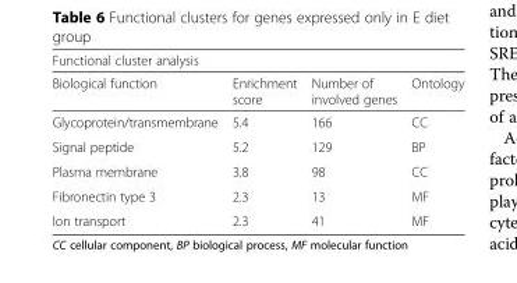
<table><thead><tr><td colspan="4">Functional cluster analysis</td></tr><tr><td>Biological function</td><td>Enrichment score</td><td>Number of involved genes</td><td>Ontology</td></tr></thead><tbody><tr><td>Glycoprotein/transmembrane</td><td>5.4</td><td>166</td><td>CC</td></tr><tr><td>Signal peptide</td><td>5.2</td><td>129</td><td>BP</td></tr><tr><td>Plasma membrane</td><td>3.8</td><td>98</td><td>CC</td></tr><tr><td>Fibronectin type 3</td><td>2.3</td><td>13</td><td>MF</td></tr><tr><td>Ion transport</td><td>2.3</td><td>41</td><td>MF</td></tr></tbody></table>